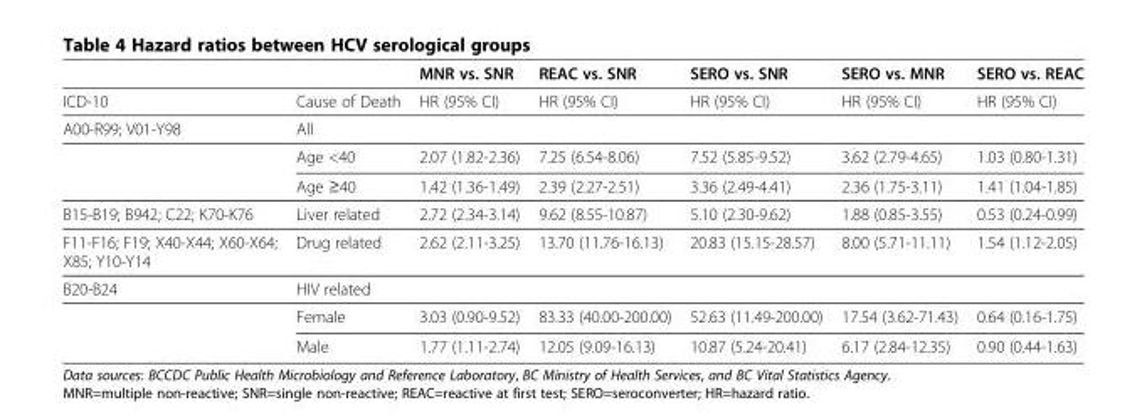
<table><thead><tr><td></td><td></td><td>MNR vs. SNR</td><td>REAC vs. SNR</td><td>SERO vs. SNR</td><td>SERO vs. MNR</td><td>SERO vs. REAC</td></tr></thead><tbody><tr><td>ICD-10</td><td>Cause of Death</td><td>HR (95% CI)</td><td>HR (95% CI)</td><td>HR (95% CI)</td><td>HR (95% CI)</td><td>HR (95% CI)</td></tr><tr><td rowspan="3">A00-R99; V01-Y98</td><td>All</td><td></td><td></td><td></td><td></td><td></td></tr><tr><td>Age &lt;40</td><td>2.07 (1.82-2.36)</td><td>7.25 (6.54-8.06)</td><td>7.52 (5.85-9.52)</td><td>3.62 (2.79-4.65)</td><td>1.03 (0.80-1.31)</td></tr><tr><td>Age ≥40</td><td>1.42 (1.36-1.49)</td><td>2.39 (2.27-2.51)</td><td>3.36 (2.49-4.41)</td><td>2.36 (1.75-3.11)</td><td>1.41 (1.04-1.85)</td></tr><tr><td>B15-B19; B942; C22; K70-K76</td><td>Liver related</td><td>2.72 (2.34-3.14)</td><td>9.62 (8.55-10.87)</td><td>5.10 (2.30-9.62)</td><td>1.88 (0.85-3.55)</td><td>0.53 (0.24-0.99)</td></tr><tr><td>F11-F16; F19; X40-X44; X60-X64; X85; Y10-Y14</td><td>Drug related</td><td>2.62 (2.11-3.25)</td><td>13.70 (11.76-16.13)</td><td>20.83 (15.15-28.57)</td><td>8.00 (5.71-11.11)</td><td>1.54 (1.12-2.05)</td></tr><tr><td rowspan="3">B20-B24</td><td>HIV related</td><td></td><td></td><td></td><td></td><td></td></tr><tr><td>Female</td><td>3.03 (0.90-9.52)</td><td>83.33 (40.00-200.00)</td><td>52.63 (11.49-200.00)</td><td>17.54 (3.62-71.43)</td><td>0.64 (0.16-1.75)</td></tr><tr><td>Male</td><td>1.77 (1.11-2.74)</td><td>12.05 (9.09-16.13)</td><td>10.87 (5.24-20.41)</td><td>6.17 (2.84-12.35)</td><td>0.90 (0.44-1.63)</td></tr></tbody></table>